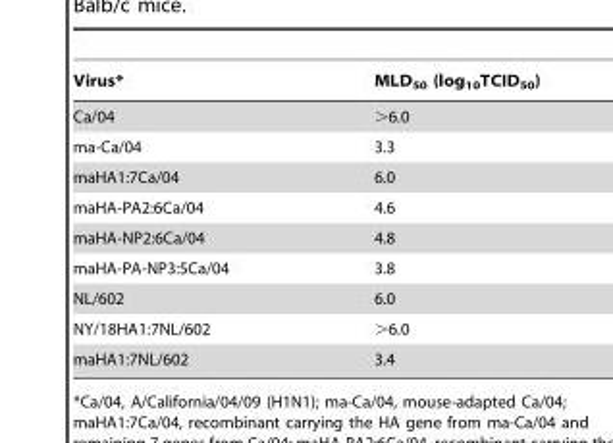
<table><thead><tr><td>Virus*</td><td>MLD<sub>50</sub> (log<sub>10</sub>TCID<sub>50</sub>)</td></tr></thead><tbody><tr><td>Ca/04</td><td>&gt;6.0</td></tr><tr><td>ma-Ca/04</td><td>3.3</td></tr><tr><td>maHA1:7Ca/04</td><td>6.0</td></tr><tr><td>maHA-PA2:6Ca/04</td><td>4.6</td></tr><tr><td>maHA-NP2:6Ca/04</td><td>4.8</td></tr><tr><td>maHA-PA-NP3:5Ca/04</td><td>3.8</td></tr><tr><td>NL/602</td><td>6.0</td></tr><tr><td>NY/18HA1:7NL/602</td><td>&gt;6.0</td></tr><tr><td>maHA1:7NL/602</td><td>3.4</td></tr></tbody></table>